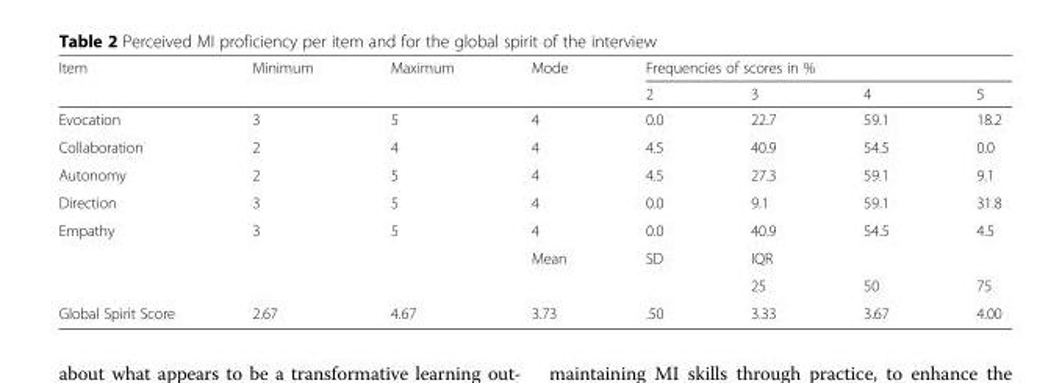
<table><thead><tr><td rowspan="2">Item</td><td rowspan="2">Minimum</td><td rowspan="2">Maximum</td><td rowspan="2">Mode</td><td colspan="4">Frequencies of scores in %</td></tr><tr><td>2</td><td>3</td><td>4</td><td>5</td></tr></thead><tbody><tr><td>Evocation</td><td>3</td><td>5</td><td>4</td><td>0.0</td><td>22.7</td><td>59.1</td><td>18.2</td></tr><tr><td>Collaboration</td><td>2</td><td>4</td><td>4</td><td>4.5</td><td>40.9</td><td>54.5</td><td>0.0</td></tr><tr><td>Autonomy</td><td>2</td><td>5</td><td>4</td><td>4.5</td><td>27.3</td><td>59.1</td><td>9.1</td></tr><tr><td>Direction</td><td>3</td><td>5</td><td>4</td><td>0.0</td><td>9.1</td><td>59.1</td><td>31.8</td></tr><tr><td rowspan="3">Empathy</td><td>3</td><td>5</td><td>4</td><td>0.0</td><td>40.9</td><td>54.5</td><td>4.5</td></tr><tr><td></td><td></td><td>Mean</td><td>SD</td><td colspan="3">IQR</td></tr><tr><td></td><td></td><td></td><td></td><td>25</td><td>50</td><td>75</td></tr><tr><td>Global Spirit Score</td><td>2.67</td><td>4.67</td><td>3.73</td><td>.50</td><td>3.33</td><td>3.67</td><td>4.00</td></tr></tbody></table>